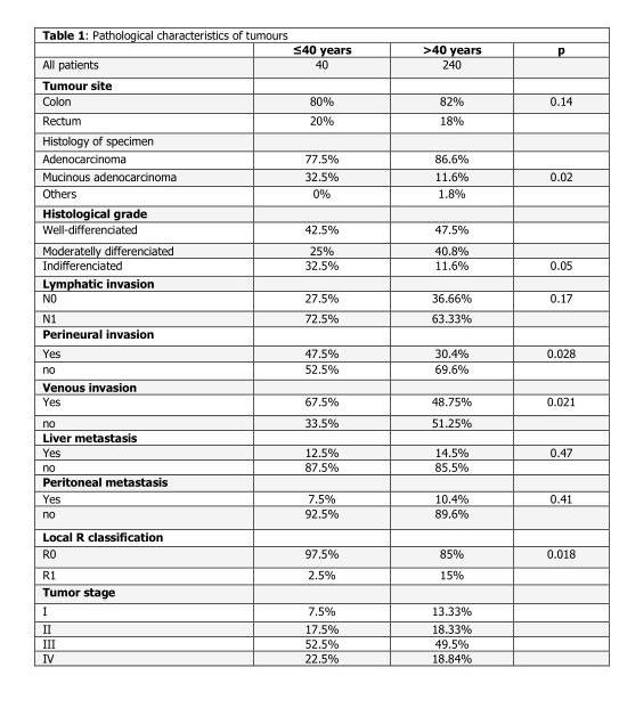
<table><thead><tr><td></td><td>≤40 years</td><td>&gt;40 years</td><td>p</td></tr></thead><tbody><tr><td>All patients</td><td>40</td><td>240</td><td></td></tr><tr><td colspan="4">Tumour site</td></tr><tr><td>Colon</td><td>80%</td><td>82%</td><td>0.14</td></tr><tr><td>Rectum</td><td>20%</td><td>18%</td><td></td></tr><tr><td colspan="4">Histology of specimen</td></tr><tr><td>Adenocarcinoma</td><td>77.5%</td><td>86.6%</td><td></td></tr><tr><td>Mucinous adenocarcinoma</td><td>32.5%</td><td>11.6%</td><td>0.02</td></tr><tr><td>Others</td><td>0%</td><td>1.8%</td><td></td></tr><tr><td colspan="4">Histological grade</td></tr><tr><td>Well-differenciated</td><td>42.5%</td><td>47.5%</td><td></td></tr><tr><td>Moderatelly differenciated</td><td>25%</td><td>40.8%</td><td></td></tr><tr><td>Indifferenciated</td><td>32.5%</td><td>11.6%</td><td>0.05</td></tr><tr><td colspan="4">Lymphatic invasion</td></tr><tr><td>N0</td><td>27.5%</td><td>36.66%</td><td>0.17</td></tr><tr><td>N1</td><td>72.5%</td><td>63.33%</td><td></td></tr><tr><td colspan="4">Perineural invasion</td></tr><tr><td>Yes</td><td>47.5%</td><td>30.4%</td><td>0.028</td></tr><tr><td>no</td><td>52.5%</td><td>69.6%</td><td></td></tr><tr><td colspan="4">Venous invasion</td></tr><tr><td>Yes</td><td>67.5%</td><td>48.75%</td><td>0.021</td></tr><tr><td>no</td><td>33.5%</td><td>51.25%</td><td></td></tr><tr><td colspan="4">Liver metastasis</td></tr><tr><td>Yes</td><td>12.5%</td><td>14.5%</td><td>0.47</td></tr><tr><td>no</td><td>87.5%</td><td>85.5%</td><td></td></tr><tr><td colspan="4">Peritoneal metastasis</td></tr><tr><td>Yes</td><td>7.5%</td><td>10.4%</td><td>0.41</td></tr><tr><td>no</td><td>92.5%</td><td>89.6%</td><td></td></tr><tr><td colspan="4">Local R classification</td></tr><tr><td>R0</td><td>97.5%</td><td>85%</td><td>0.018</td></tr><tr><td>R1</td><td>2.5%</td><td>15%</td><td></td></tr><tr><td colspan="4">Tumor stage</td></tr><tr><td>I</td><td>7.5%</td><td>13.33%</td><td></td></tr><tr><td>II</td><td>17.5%</td><td>18.33%</td><td></td></tr><tr><td>III</td><td>52.5%</td><td>49.5%</td><td></td></tr><tr><td>IV</td><td>22.5%</td><td>18.84%</td><td></td></tr></tbody></table>